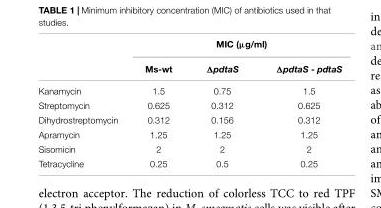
<table><thead><tr><td rowspan="2"></td><td colspan="3">MIC (µg/ml)</td></tr><tr><td>Ms-wt</td><td>ΔpdtaS</td><td>ΔpdtaS - pdtaS</td></tr></thead><tbody><tr><td>Kanamycin</td><td>1.5</td><td>0.75</td><td>1.5</td></tr><tr><td>Streptomycin</td><td>0.625</td><td>0.312</td><td>0.625</td></tr><tr><td>Dihydrostreptomycin</td><td>0.312</td><td>0.156</td><td>0.312</td></tr><tr><td>Apramycin</td><td>1.25</td><td>1.25</td><td>1.25</td></tr><tr><td>Sisomicin</td><td>2</td><td>2</td><td>2</td></tr><tr><td>Tetracycline</td><td>0.25</td><td>0.5</td><td>0.25</td></tr></tbody></table>